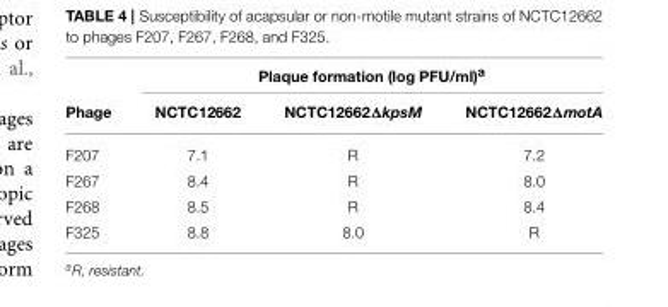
<table><thead><tr><td rowspan="2">Phage</td><td colspan="3">Plaque formation (log PFU/ml)<sup>a</sup></td></tr><tr><td>NCTC12662</td><td>NCTC12662ΔkpsM</td><td>NCTC12662ΔmotA</td></tr></thead><tbody><tr><td>F207</td><td>7.1</td><td>R</td><td>7.2</td></tr><tr><td>F267</td><td>8.4</td><td>R</td><td>8.0</td></tr><tr><td>F268</td><td>8.5</td><td>R</td><td>8.4</td></tr><tr><td>F325</td><td>8.8</td><td>8.0</td><td>R</td></tr></tbody></table>